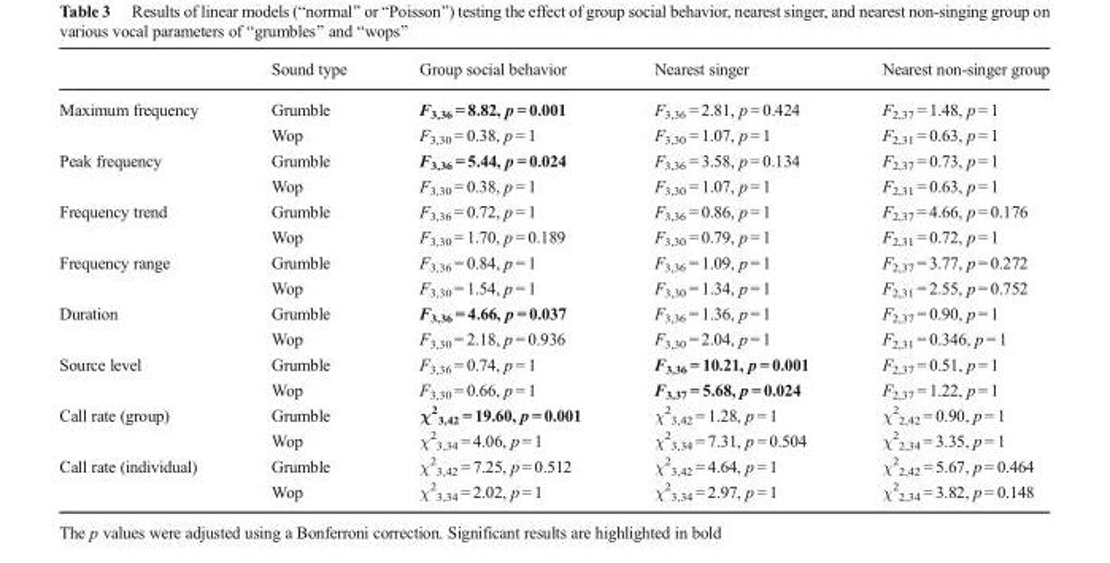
<table><thead><tr><td></td><td>Sound type</td><td>Group social behavior</td><td>Nearest singer</td><td>Nearest non-singer group</td></tr></thead><tbody><tr><td rowspan="2">Maximum frequency</td><td>Grumble</td><td>F<sub>3,36</sub> = 8.82, p = 0.001</td><td>F<sub>3,36</sub> = 2.81, p = 0.424</td><td>F<sub>2,37</sub> = 1.48, p = 1</td></tr><tr><td>Wop</td><td>F<sub>3,30</sub> = 0.38, p = 1</td><td>F<sub>3,30</sub> = 1.07, p = 1</td><td>F<sub>2,31</sub> = 0.63, p = 1</td></tr><tr><td rowspan="2">Peak frequency</td><td>Grumble</td><td>F<sub>3,36</sub> = 5.44, p = 0.024</td><td>F<sub>3,36</sub> = 3.58, p = 0.134</td><td>F<sub>2,37</sub> = 0.73, p = 1</td></tr><tr><td>Wop</td><td>F<sub>3,30</sub> = 0.38, p = 1</td><td>F<sub>3,30</sub> = 1.07, p = 1</td><td>F<sub>2,31</sub> = 0.63, p = 1</td></tr><tr><td rowspan="2">Frequency trend</td><td>Grumble</td><td>F<sub>3,36</sub> = 0.72, p = 1</td><td>F<sub>3,36</sub> = 0.86, p = 1</td><td>F<sub>2,37</sub> = 4.66, p = 0.176</td></tr><tr><td>Wop</td><td>F<sub>3,30</sub> = 1.70, p = 0.189</td><td>F<sub>3,30</sub> = 0.79, p = 1</td><td>F<sub>2,31</sub> = 0.72, p = 1</td></tr><tr><td rowspan="2">Frequency range</td><td>Grumble</td><td>F<sub>3,36</sub> = 0.84, p = 1</td><td>F<sub>3,36</sub> = 1.09, p = 1</td><td>F<sub>2,37</sub> = 3.77, p = 0.272</td></tr><tr><td>Wop</td><td>F<sub>3,30</sub> = 1.54, p = 1</td><td>F<sub>3,30</sub> = 1.34, p = 1</td><td>F<sub>2,31</sub> = 2.55, p = 0.752</td></tr><tr><td rowspan="2">Duration</td><td>Grumble</td><td>F<sub>3,36</sub> = 4.66, p = 0.037</td><td>F<sub>3,36</sub> = 1.36, p = 1</td><td>F<sub>2,37</sub> = 0.90, p = 1</td></tr><tr><td>Wop</td><td>F<sub>3,30</sub> = 2.18, p = 0.936</td><td>F<sub>3,30</sub> = 2.04, p = 1</td><td>F<sub>2,31</sub> = 0.346, p = 1</td></tr><tr><td rowspan="2">Source level</td><td>Grumble</td><td>F<sub>3,36</sub> = 0.74, p = 1</td><td>F<sub>3,36</sub> = 10.21, p = 0.001</td><td>F<sub>2,37</sub> = 0.51, p = 1</td></tr><tr><td>Wop</td><td>F<sub>3,30</sub> = 0.66, p = 1</td><td>F<sub>3,37</sub> = 5.68, p = 0.024</td><td>F<sub>2,37</sub> = 1.22, p = 1</td></tr><tr><td rowspan="2">Call rate (group)</td><td>Grumble</td><td>χ<sup>2</sup> <sub>3,42</sub> = 19.60, p = 0.001</td><td>χ<sup>2</sup> <sub>3,42</sub> = 1.28, p = 1</td><td>χ<sup>2</sup> <sub>2,42</sub> = 0.90, p = 1</td></tr><tr><td>Wop</td><td>χ<sup>2</sup> <sub>3,34</sub> = 4.06, p = 1</td><td>χ<sup>2</sup> <sub>3,34</sub> = 7.31, p = 0.504</td><td>χ<sup>2</sup> <sub>2,34</sub> = 3.35, p = 1</td></tr><tr><td rowspan="2">Call rate (individual)</td><td>Grumble</td><td>χ<sup>2</sup> <sub>3,42</sub> = 7.25, p = 0.512</td><td>χ<sup>2</sup> <sub>3,42</sub> = 4.64, p = 1</td><td>χ<sup>2</sup> <sub>2,42</sub> = 5.67, p = 0.464</td></tr><tr><td>Wop</td><td>χ<sup>2</sup> <sub>3,34</sub> = 2.02, p = 1</td><td>χ<sup>2</sup> <sub>3,34</sub> = 2.97, p = 1</td><td>χ<sup>2</sup> <sub>2,34</sub> = 3.82, p = 0.148</td></tr></tbody></table>